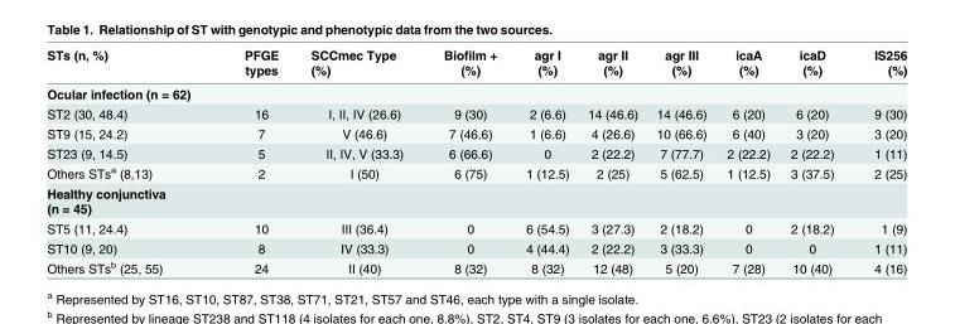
<table><thead><tr><td>STs (n, %)</td><td>PFGE types</td><td>SCCmec Type (%)</td><td>Biofilm + (%)</td><td>agr I (%)</td><td>agr II (%)</td><td>agr III (%)</td><td>icaA (%)</td><td>icaD (%)</td><td>IS256 (%)</td></tr></thead><tbody><tr><td colspan="10">Ocular infection (n = 62)</td></tr><tr><td>ST2 (30, 48.4)</td><td>16</td><td>I, II, IV (26.6)</td><td>9 (30)</td><td>2 (6.6)</td><td>14 (46.6)</td><td>14 (46.6)</td><td>6 (20)</td><td>6 (20)</td><td>9 (30)</td></tr><tr><td>ST9 (15, 24.2)</td><td>7</td><td>V (46.6)</td><td>7 (46.6)</td><td>1 (6.6)</td><td>4 (26.6)</td><td>10 (66.6)</td><td>6 (40)</td><td>3 (20)</td><td>3 (20)</td></tr><tr><td>ST23 (9, 14.5)</td><td>5</td><td>II, IV, V (33.3)</td><td>6 (66.6)</td><td>0</td><td>2 (22.2)</td><td>7 (77.7)</td><td>2 (22.2)</td><td>2 (22.2)</td><td>1 (11)</td></tr><tr><td>Others STs<sup>a</sup> (8,13)</td><td>2</td><td>I (50)</td><td>6 (75)</td><td>1 (12.5)</td><td>2 (25)</td><td>5 (62.5)</td><td>1 (12.5)</td><td>3 (37.5)</td><td>2 (25)</td></tr><tr><td colspan="10">Healthy conjunctiva (n = 45)</td></tr><tr><td>ST5 (11, 24.4)</td><td>10</td><td>III (36.4)</td><td>0</td><td>6 (54.5)</td><td>3 (27.3)</td><td>2 (18.2)</td><td>0</td><td>2 (18.2)</td><td>1 (9)</td></tr><tr><td>ST10 (9, 20)</td><td>8</td><td>IV (33.3)</td><td>0</td><td>4 (44.4)</td><td>2 (22.2)</td><td>3 (33.3)</td><td>0</td><td>0</td><td>1 (11)</td></tr><tr><td>Others STs<sup>b</sup> (25, 55)</td><td>24</td><td>II (40)</td><td>8 (32)</td><td>8 (32)</td><td>12 (48)</td><td>5 (20)</td><td>7 (28)</td><td>10 (40)</td><td>4 (16)</td></tr></tbody></table>